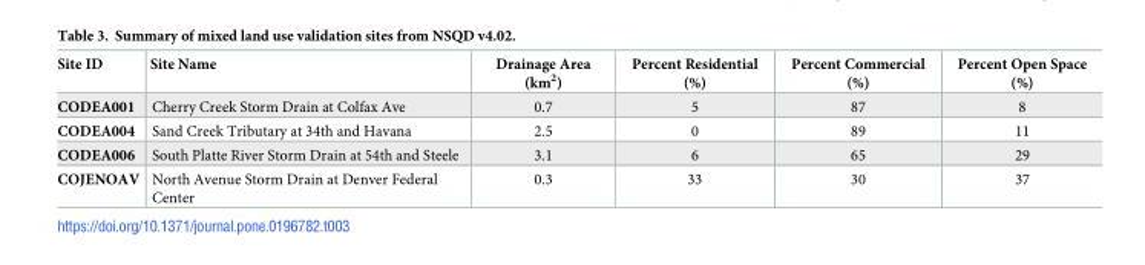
<table><thead><tr><td>Site ID</td><td>Site Name</td><td>Drainage Area (km<sup>2</sup>)</td><td>Percent Residential (%)</td><td>Percent Commercial (%)</td><td>Percent Open Space (%)</td></tr></thead><tbody><tr><td>CODEA001</td><td>Cherry Creek Storm Drain at Colfax Ave</td><td>0.7</td><td>5</td><td>87</td><td>8</td></tr><tr><td>CODEA004</td><td>Sand Creek Tributary at 34th and Havana</td><td>2.5</td><td>0</td><td>89</td><td>11</td></tr><tr><td>CODEA006</td><td>South Platte River Storm Drain at 54th and Steele</td><td>3.1</td><td>6</td><td>65</td><td>29</td></tr><tr><td>COJENOAV</td><td>North Avenue Storm Drain at Denver Federal Center</td><td>0.3</td><td>33</td><td>30</td><td>37</td></tr></tbody></table>